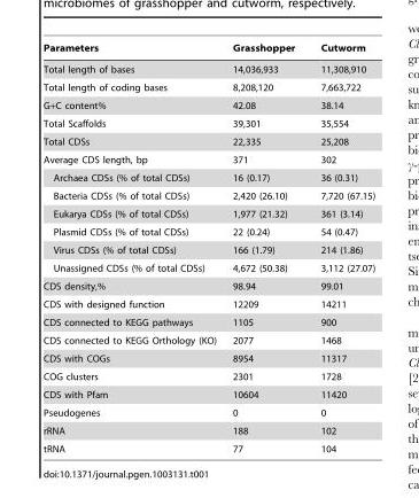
<table><thead><tr><td>Parameters</td><td>Grasshopper</td><td>Cutworm</td></tr></thead><tbody><tr><td>Total length of bases</td><td>14,036,933</td><td>11,308,910</td></tr><tr><td>Total length of coding bases</td><td>8,208,120</td><td>7,663,722</td></tr><tr><td>G+C content%</td><td>42.08</td><td>38.14</td></tr><tr><td>Total Scaffolds</td><td>39,301</td><td>35,554</td></tr><tr><td>Total CDSs</td><td>22,335</td><td>25,208</td></tr><tr><td>Average CDS length, bp</td><td>371</td><td>302</td></tr><tr><td>Archaea CDSs (% of total CDSs)</td><td>16 (0.17)</td><td>36 (0.31)</td></tr><tr><td>Bacteria CDSs (% of total CDSs)</td><td>2,420 (26.10)</td><td>7,720 (67.15)</td></tr><tr><td>Eukarya CDSs (% of total CDSs)</td><td>1,977 (21.32)</td><td>361 (3.14)</td></tr><tr><td>Plasmid CDSs (% of total CDSs)</td><td>22 (0.24)</td><td>54 (0.47)</td></tr><tr><td>Virus CDSs (% of total CDSs)</td><td>166 (1.79)</td><td>214 (1.86)</td></tr><tr><td>Unassigned CDSs (% of total CDSs)</td><td>4,672 (50.38)</td><td>3,112 (27.07)</td></tr><tr><td>CDS density,%</td><td>98.94</td><td>99.01</td></tr><tr><td>CDS with designed function</td><td>12209</td><td>14211</td></tr><tr><td>CDS connected to KEGG pathways</td><td>1105</td><td>900</td></tr><tr><td>CDS connected to KEGG Orthology (KO)</td><td>2077</td><td>1468</td></tr><tr><td>CDS with COGs</td><td>8954</td><td>11317</td></tr><tr><td>COG clusters</td><td>2301</td><td>1728</td></tr><tr><td>CDS with Pfam</td><td>10604</td><td>11420</td></tr><tr><td>Pseudogenes</td><td>0</td><td>0</td></tr><tr><td>rRNA</td><td>188</td><td>102</td></tr><tr><td>tRNA</td><td>77</td><td>104</td></tr></tbody></table>